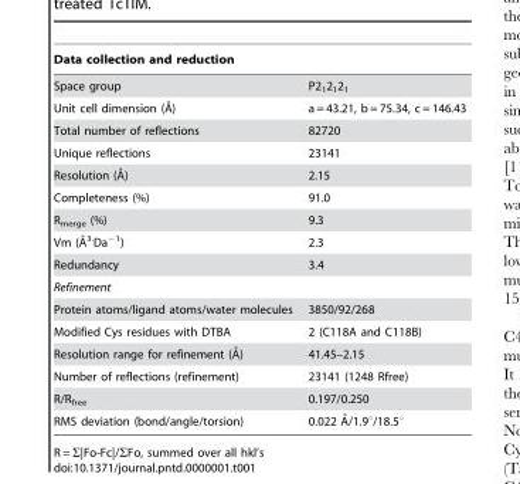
<table><thead><tr><td colspan="2">Data collection and reduction</td></tr><tr><td>Space group</td><td>P2<sub>1</sub>2<sub>1</sub>2<sub>1</sub></td></tr></thead><tbody><tr><td>Unit cell dimension (A˚)</td><td>a = 43.21, b = 75.34, c = 146.43</td></tr><tr><td>Total number of reflections</td><td>82720</td></tr><tr><td>Unique reflections</td><td>23141</td></tr><tr><td>Resolution (A˚)</td><td>2.15</td></tr><tr><td>Completeness (%)</td><td>91.0</td></tr><tr><td>R<sub>merge</sub> (%)</td><td>9.3</td></tr><tr><td>Vm (A˚3.Da21)</td><td>2.3</td></tr><tr><td>Redundancy</td><td>3.4</td></tr><tr><td colspan="2">Refinement</td></tr><tr><td>Protein atoms/ligand atoms/water molecules</td><td>3850/92/268</td></tr><tr><td>Modified Cys residues with DTBA</td><td>2 (C118A and C118B)</td></tr><tr><td>Resolution range for refinement (A˚)</td><td>41.45–2.15</td></tr><tr><td>Number of reflections (refinement)</td><td>23141 (1248 Rfree)</td></tr><tr><td>R/R<sub>free</sub></td><td>0.197/0.250</td></tr><tr><td>RMS deviation (bond/angle/torsion)</td><td>0.022 A˚/1.9u/18.5u</td></tr></tbody></table>